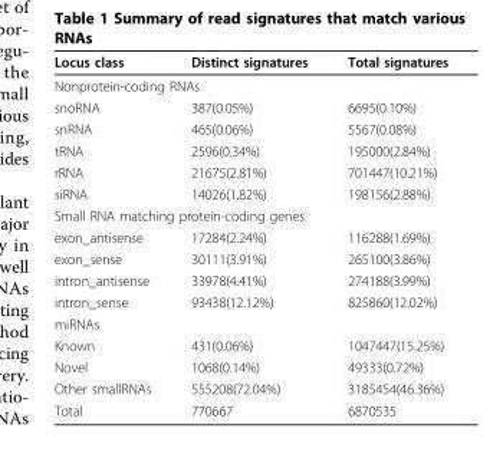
<table><thead><tr><td>Locus class</td><td>Distinct signatures</td><td>Total signatures</td></tr></thead><tbody><tr><td colspan="3">Nonprotein-coding RNAs</td></tr><tr><td>snoRNA</td><td>387(0.05%)</td><td>6695(0.10%)</td></tr><tr><td>snRNA</td><td>465(0.06%)</td><td>5567(0.08%)</td></tr><tr><td>tRNA</td><td>2596(0.34%)</td><td>195000(2.84%)</td></tr><tr><td>rRNA</td><td>21675(2.81%)</td><td>701447(10.21%)</td></tr><tr><td>siRNA</td><td>14026(1.82%)</td><td>198156(2.88%)</td></tr><tr><td colspan="3">Small RNA matching protein-coding genes</td></tr><tr><td>exon_antisense</td><td>17284(2.24%)</td><td>116288(1.69%)</td></tr><tr><td>exon_sense</td><td>30111(3.91%)</td><td>265100(3.86%)</td></tr><tr><td>intron_antisense</td><td>33978(4.41%)</td><td>274188(3.99%)</td></tr><tr><td>intron_sense</td><td>93438(12.12%)</td><td>825860(12.02%)</td></tr><tr><td colspan="3">miRNAs</td></tr><tr><td>Known</td><td>431(0.06%)</td><td>1047447(15.25%)</td></tr><tr><td>Novel</td><td>1068(0.14%)</td><td>49333(0.72%)</td></tr><tr><td>Other smallRNAs</td><td>555208(72.04%)</td><td>3185454(46.36%)</td></tr><tr><td>Total</td><td>770667</td><td>6870535</td></tr></tbody></table>